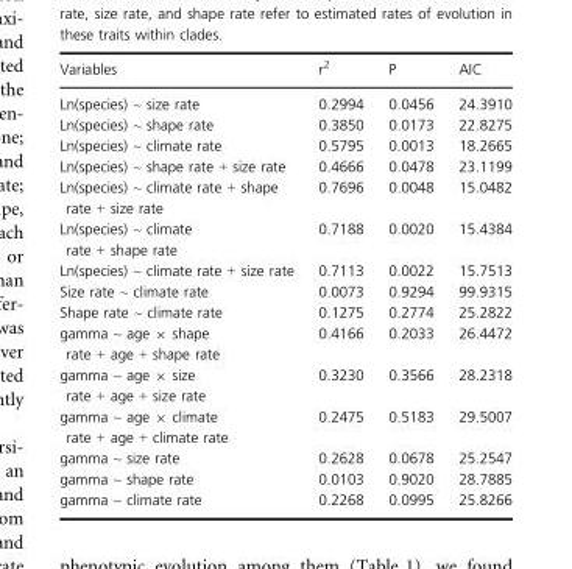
<table><thead><tr><td>Variables</td><td>r<sup>2</sup></td><td>P</td><td>AIC</td></tr></thead><tbody><tr><td>Ln(species) ~ size rate</td><td>0.2994</td><td>0.0456</td><td>24.3910</td></tr><tr><td>Ln(species) ~ shape rate</td><td>0.3850</td><td>0.0173</td><td>22.8275</td></tr><tr><td>Ln(species) ~ climate rate</td><td>0.5795</td><td>0.0013</td><td>18.2665</td></tr><tr><td>Ln(species) ~ shape rate + size rate</td><td>0.4666</td><td>0.0478</td><td>23.1199</td></tr><tr><td>Ln(species) ~ climate rate + shape rate + size rate</td><td>0.7696</td><td>0.0048</td><td>15.0482</td></tr><tr><td>Ln(species) ~ climate rate + shape rate</td><td>0.7188</td><td>0.0020</td><td>15.4384</td></tr><tr><td>Ln(species) ~ climate rate + size rate</td><td>0.7113</td><td>0.0022</td><td>15.7513</td></tr><tr><td>Size rate ~ climate rate</td><td>0.0073</td><td>0.9294</td><td>99.9315</td></tr><tr><td>Shape rate ~ climate rate</td><td>0.1275</td><td>0.2774</td><td>25.2822</td></tr><tr><td>gamma ~ age × shape rate + age + shape rate</td><td>0.4166</td><td>0.2033</td><td>26.4472</td></tr><tr><td>gamma ~ age × size rate + age + size rate</td><td>0.3230</td><td>0.3566</td><td>28.2318</td></tr><tr><td>gamma ~ age × climate rate + age + climate rate</td><td>0.2475</td><td>0.5183</td><td>29.5007</td></tr><tr><td>gamma ~ size rate</td><td>0.2628</td><td>0.0678</td><td>25.2547</td></tr><tr><td>gamma ~ shape rate</td><td>0.0103</td><td>0.9020</td><td>28.7885</td></tr><tr><td>gamma ~ climate rate</td><td>0.2268</td><td>0.0995</td><td>25.8266</td></tr></tbody></table>